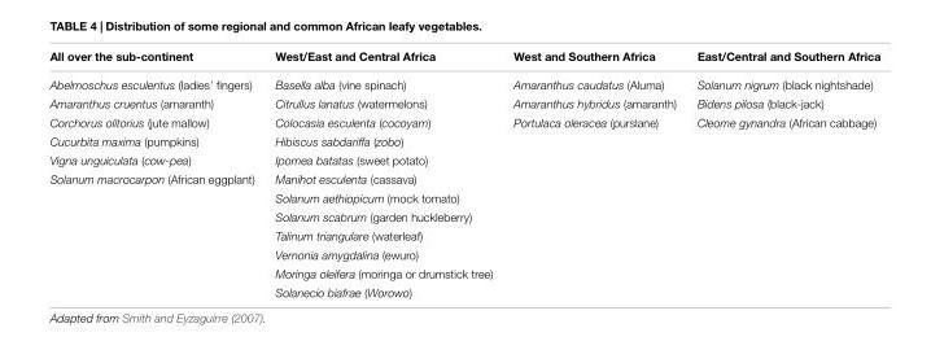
<table><thead><tr><td>All over the sub-continent</td><td>West/East and Central Africa</td><td>West and Southern Africa</td><td>East/Central and Southern Africa</td></tr></thead><tbody><tr><td>Abelmoschus esculentus (ladies’ fingers)</td><td>Basella alba (vine spinach)</td><td>Amaranthus caudatus (Aluma)</td><td>Solanum nigrum (black nightshade)</td></tr><tr><td>Amaranthus cruentus (amaranth)</td><td>Citrullus lanatus (watermelons)</td><td>Amaranthus hybridus (amaranth)</td><td>Bidens pilosa (black-jack)</td></tr><tr><td>Corchorus olitorius (jute mallow)</td><td>Colocasia esculenta (cocoyam)</td><td>Portulaca oleracea (purslane)</td><td>Cleome gynandra (African cabbage)</td></tr><tr><td>Cucurbita maxima (pumpkins)</td><td>Hibiscus sabdariffa (zobo)</td><td></td><td></td></tr><tr><td>Vigna unguiculata (cow-pea)</td><td>Ipomea batatas (sweet potato)</td><td></td><td></td></tr><tr><td rowspan="7">Solanum macrocarpon (African eggplant)</td><td>Manihot esculenta (cassava)</td><td></td><td></td></tr><tr><td>Solanum aethiopicum (mock tomato)</td><td></td><td></td></tr><tr><td>Solanum scabrum (garden huckleberry)</td><td></td><td></td></tr><tr><td>Talinum triangulare (waterleaf)</td><td></td><td></td></tr><tr><td>Vernonia amygdalina (ewuro)</td><td></td><td></td></tr><tr><td>Moringa oleifera (moringa or drumstick tree)</td><td></td><td></td></tr><tr><td>Solanecio biafrae (Worowo)</td><td></td><td></td></tr></tbody></table>